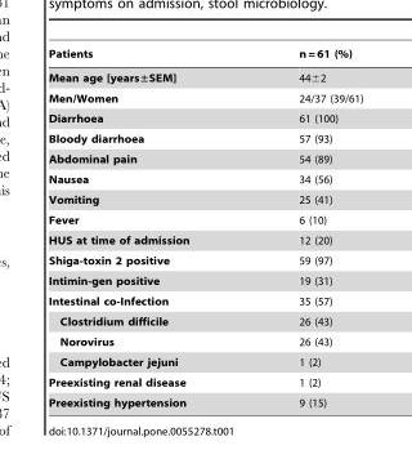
<table><thead><tr><td>Patients</td><td>n = 61 (%)</td></tr></thead><tbody><tr><td>Mean age [years±SEM]</td><td>44±2</td></tr><tr><td>Men/Women</td><td>24/37 (39/61)</td></tr><tr><td>Diarrhoea</td><td>61 (100)</td></tr><tr><td>Bloody diarrhoea</td><td>57 (93)</td></tr><tr><td>Abdominal pain</td><td>54 (89)</td></tr><tr><td>Nausea</td><td>34 (56)</td></tr><tr><td>Vomiting</td><td>25 (41)</td></tr><tr><td>Fever</td><td>6 (10)</td></tr><tr><td>HUS at time of admission</td><td>12 (20)</td></tr><tr><td>Shiga-toxin 2 positive</td><td>59 (97)</td></tr><tr><td>Intimin-gen positive</td><td>19 (31)</td></tr><tr><td>Intestinal co-Infection</td><td>35 (57)</td></tr><tr><td>Clostridium difficile</td><td>26 (43)</td></tr><tr><td>Norovirus</td><td>26 (43)</td></tr><tr><td>Campylobacter jejuni</td><td>1 (2)</td></tr><tr><td>Preexisting renal disease</td><td>1 (2)</td></tr><tr><td>Preexisting hypertension</td><td>9 (15)</td></tr></tbody></table>